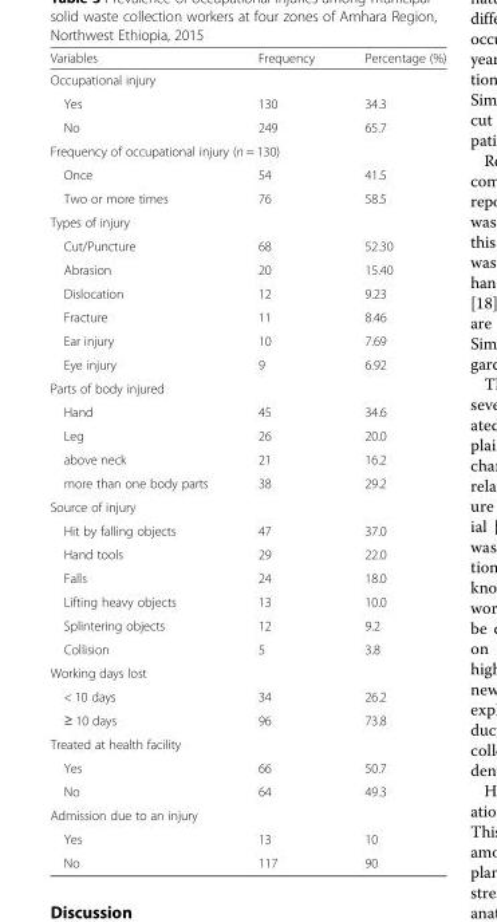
<table><thead><tr><td>Variables</td><td>Frequency</td><td>Percentage (%)</td></tr></thead><tbody><tr><td colspan="3">Occupational injury</td></tr><tr><td>Yes</td><td>130</td><td>34.3</td></tr><tr><td>No</td><td>249</td><td>65.7</td></tr><tr><td colspan="3">Frequency of occupational injury (n = 130)</td></tr><tr><td>Once</td><td>54</td><td>41.5</td></tr><tr><td>Two or more times</td><td>76</td><td>58.5</td></tr><tr><td colspan="3">Types of injury</td></tr><tr><td>Cut/Puncture</td><td>68</td><td>52.30</td></tr><tr><td>Abrasion</td><td>20</td><td>15.40</td></tr><tr><td>Dislocation</td><td>12</td><td>9.23</td></tr><tr><td>Fracture</td><td>11</td><td>8.46</td></tr><tr><td>Ear injury</td><td>10</td><td>7.69</td></tr><tr><td>Eye injury</td><td>9</td><td>6.92</td></tr><tr><td colspan="3">Parts of body injured</td></tr><tr><td>Hand</td><td>45</td><td>34.6</td></tr><tr><td>Leg</td><td>26</td><td>20.0</td></tr><tr><td>above neck</td><td>21</td><td>16.2</td></tr><tr><td>more than one body parts</td><td>38</td><td>29.2</td></tr><tr><td colspan="3">Source of injury</td></tr><tr><td>Hit by falling objects</td><td>47</td><td>37.0</td></tr><tr><td>Hand tools</td><td>29</td><td>22.0</td></tr><tr><td>Falls</td><td>24</td><td>18.0</td></tr><tr><td>Lifting heavy objects</td><td>13</td><td>10.0</td></tr><tr><td>Splintering objects</td><td>12</td><td>9.2</td></tr><tr><td>Collision</td><td>5</td><td>3.8</td></tr><tr><td colspan="3">Working days lost</td></tr><tr><td>&lt; 10 days</td><td>34</td><td>26.2</td></tr><tr><td>≥ 10 days</td><td>96</td><td>73.8</td></tr><tr><td colspan="3">Treated at health facility</td></tr><tr><td>Yes</td><td>66</td><td>50.7</td></tr><tr><td>No</td><td>64</td><td>49.3</td></tr><tr><td colspan="3">Admission due to an injury</td></tr><tr><td>Yes</td><td>13</td><td>10</td></tr><tr><td>No</td><td>117</td><td>90</td></tr></tbody></table>